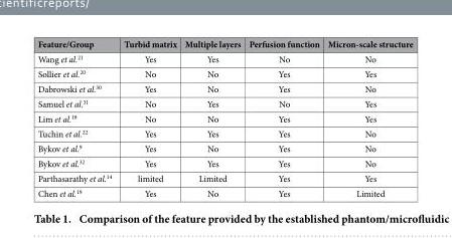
<table><thead><tr><td>Feature/Group</td><td>Turbid matrix</td><td>Multiple layers</td><td>Perfusion function</td><td>Micron-scale structure</td></tr></thead><tbody><tr><td>Wang et al.<sup>21</sup></td><td>Yes</td><td>Yes</td><td>No</td><td>No</td></tr><tr><td>Sollier et al.<sup>20</sup></td><td>No</td><td>No</td><td>Yes</td><td>Yes</td></tr><tr><td>Dabrowski et al.<sup>30</sup></td><td>Yes</td><td>No</td><td>Yes</td><td>No</td></tr><tr><td>Samuel et al.<sup>31</sup></td><td>No</td><td>Yes</td><td>No</td><td>Yes</td></tr><tr><td>Lim et al.<sup>18</sup></td><td>No</td><td>No</td><td>Yes</td><td>Yes</td></tr><tr><td>Tuchin et al.<sup>22</sup></td><td>Yes</td><td>Yes</td><td>Yes</td><td>No</td></tr><tr><td>Bykov et al.<sup>9</sup></td><td>Yes</td><td>No</td><td>Yes</td><td>No</td></tr><tr><td>Bykov et al.<sup>32</sup></td><td>Yes</td><td>Yes</td><td>Yes</td><td>No</td></tr><tr><td>Parthasarathy et al.<sup>14</sup></td><td>limited</td><td>Limited</td><td>Yes</td><td>Yes</td></tr><tr><td>Chen et al.<sup>19</sup></td><td>Yes</td><td>No</td><td>Yes</td><td>Limited</td></tr></tbody></table>